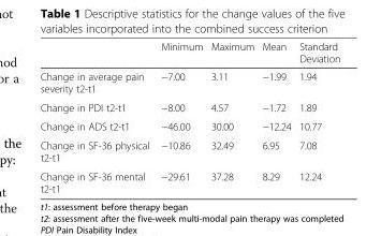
<table><thead><tr><td></td><td>Minimum</td><td>Maximum</td><td>Mean</td><td>Standard Deviation</td></tr></thead><tbody><tr><td>Change in average pain severity t2-t1</td><td>−7.00</td><td>3.11</td><td>−1.99</td><td>1.94</td></tr><tr><td>Change in PDI t2-t1</td><td>−8.00</td><td>4.57</td><td>−1.72</td><td>1.89</td></tr><tr><td>Change in ADS t2-t1</td><td>−46.00</td><td>30.00</td><td>−12.24</td><td>10.77</td></tr><tr><td>Change in SF-36 physical t2-t1</td><td>−10.86</td><td>32.49</td><td>6.95</td><td>7.08</td></tr><tr><td>Change in SF-36 mental t2-t1</td><td>−29.61</td><td>37.28</td><td>8.29</td><td>12.24</td></tr></tbody></table>